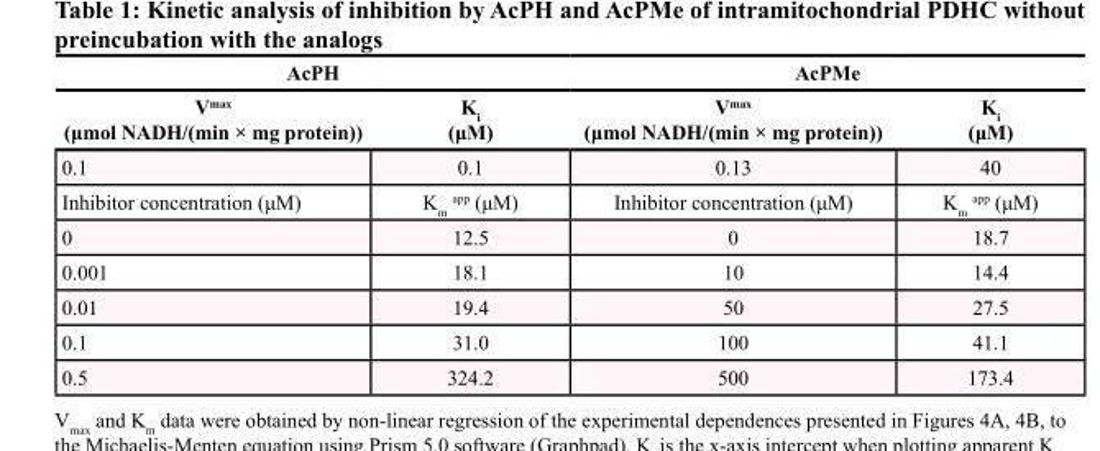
<table><thead><tr><td colspan="2">AcPH</td><td colspan="2">AcPMe</td></tr><tr><td>V<sup>max</sup> (μmol NADH/(min × mg protein))</td><td>K<sub>i</sub> (μM)</td><td>V<sup>max</sup> (μmol NADH/(min × mg protein))</td><td>K<sub>i</sub> (μM)</td></tr></thead><tbody><tr><td>0.1</td><td>0.1</td><td>0.13</td><td>40</td></tr><tr><td>Inhibitor concentration (μM)</td><td>K<sub>m</sub> <sup>app</sup> (μM)</td><td>Inhibitor concentration (μM)</td><td>K<sub>m</sub> <sup>app</sup> (μM)</td></tr><tr><td>0</td><td>12.5</td><td>0</td><td>18.7</td></tr><tr><td>0.001</td><td>18.1</td><td>10</td><td>14.4</td></tr><tr><td>0.01</td><td>19.4</td><td>50</td><td>27.5</td></tr><tr><td>0.1</td><td>31.0</td><td>100</td><td>41.1</td></tr><tr><td>0.5</td><td>324.2</td><td>500</td><td>173.4</td></tr></tbody></table>